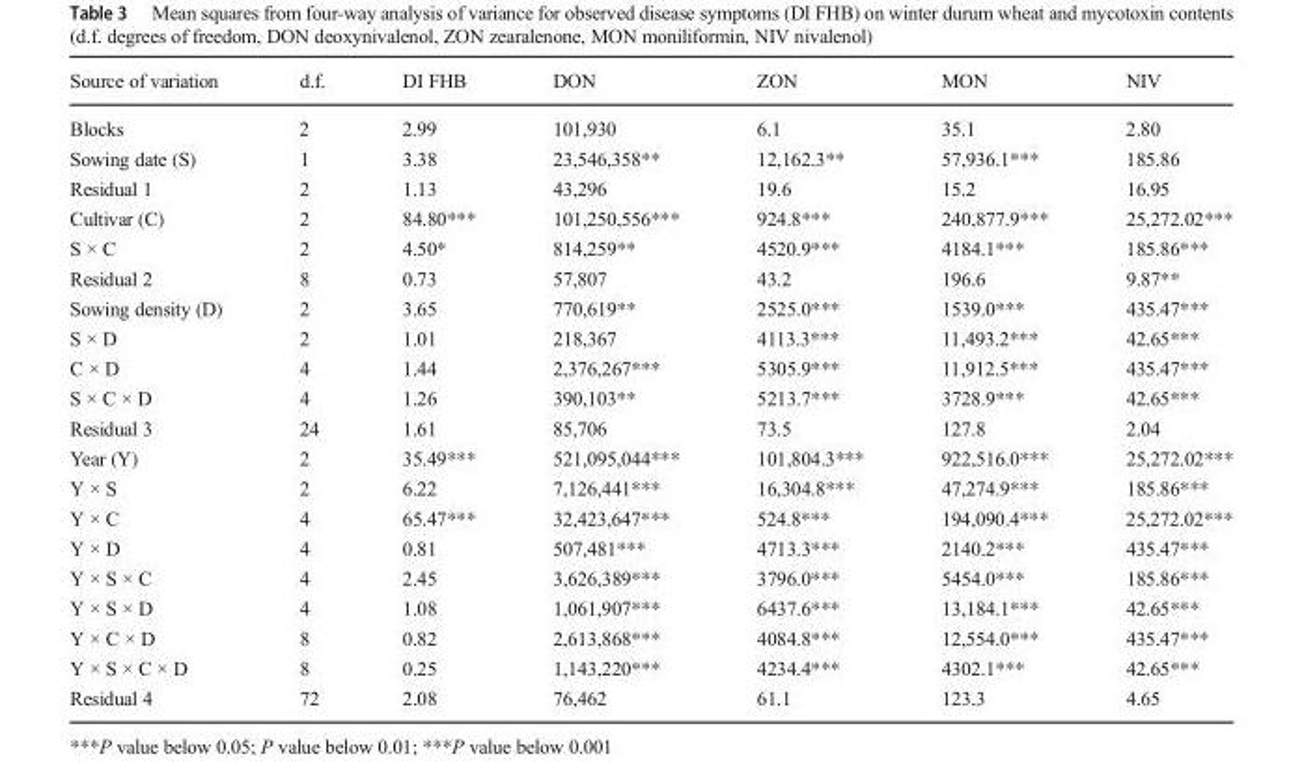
<table><thead><tr><td>Source of variation</td><td>d.f.</td><td>DI FHB</td><td>DON</td><td>ZON</td><td>MON</td><td>NIV</td></tr></thead><tbody><tr><td>Blocks</td><td>2</td><td>2.99</td><td>101,930</td><td>6.1</td><td>35.1</td><td>2.80</td></tr><tr><td>Sowing date (S)</td><td>1</td><td>3.38</td><td>23,546,358**</td><td>12,162.3**</td><td>57,936.1***</td><td>185.86</td></tr><tr><td>Residual 1</td><td>2</td><td>1.13</td><td>43,296</td><td>19.6</td><td>15.2</td><td>16.95</td></tr><tr><td>Cultivar (C)</td><td>2</td><td>84.80***</td><td>101,250,556***</td><td>924.8***</td><td>240,877.9***</td><td>25,272.02***</td></tr><tr><td>S × C</td><td>2</td><td>4.50*</td><td>814,259**</td><td>4520.9***</td><td>4184.1***</td><td>185.86***</td></tr><tr><td>Residual 2</td><td>8</td><td>0.73</td><td>57,807</td><td>43.2</td><td>196.6</td><td>9.87**</td></tr><tr><td>Sowing density (D)</td><td>2</td><td>3.65</td><td>770,619**</td><td>2525.0***</td><td>1539.0***</td><td>435.47***</td></tr><tr><td>S × D</td><td>2</td><td>1.01</td><td>218,367</td><td>4113.3***</td><td>11,493.2***</td><td>42.65***</td></tr><tr><td>C × D</td><td>4</td><td>1.44</td><td>2,376,267***</td><td>5305.9***</td><td>11,912.5***</td><td>435.47***</td></tr><tr><td>S × C × D</td><td>4</td><td>1.26</td><td>390,103**</td><td>5213.7***</td><td>3728.9***</td><td>42.65***</td></tr><tr><td>Residual 3</td><td>24</td><td>1.61</td><td>85,706</td><td>73.5</td><td>127.8</td><td>2.04</td></tr><tr><td>Year (Y)</td><td>2</td><td>35.49***</td><td>521,095,044***</td><td>101,804.3***</td><td>922,516.0***</td><td>25,272.02***</td></tr><tr><td>Y × S</td><td>2</td><td>6.22</td><td>7,126,441***</td><td>16,304.8***</td><td>47,274.9***</td><td>185.86***</td></tr><tr><td>Y × C</td><td>4</td><td>65.47***</td><td>32,423,647***</td><td>524.8***</td><td>194,090.4***</td><td>25,272.02***</td></tr><tr><td>Y × D</td><td>4</td><td>0.81</td><td>507,481***</td><td>4713.3***</td><td>2140.2***</td><td>435.47***</td></tr><tr><td>Y × S × C</td><td>4</td><td>2.45</td><td>3,626,389***</td><td>3796.0***</td><td>5454.0***</td><td>185.86***</td></tr><tr><td>Y × S × D</td><td>4</td><td>1.08</td><td>1,061,907***</td><td>6437.6***</td><td>13,184.1***</td><td>42.65***</td></tr><tr><td>Y × C × D</td><td>8</td><td>0.82</td><td>2,613,868***</td><td>4084.8***</td><td>12,554.0***</td><td>435.47***</td></tr><tr><td>Y × S × C × D</td><td>8</td><td>0.25</td><td>1,143,220***</td><td>4234.4***</td><td>4302.1***</td><td>42.65***</td></tr><tr><td>Residual 4</td><td>72</td><td>2.08</td><td>76,462</td><td>61.1</td><td>123.3</td><td>4.65</td></tr></tbody></table>